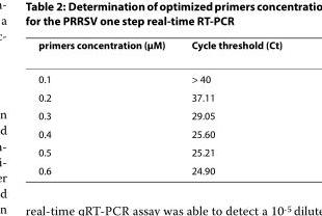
<table><thead><tr><td>primers concentration (μM)</td><td>Cycle threshold (Ct)</td></tr></thead><tbody><tr><td>0.1</td><td>&gt; 40</td></tr><tr><td>0.2</td><td>37.11</td></tr><tr><td>0.3</td><td>29.05</td></tr><tr><td>0.4</td><td>25.60</td></tr><tr><td>0.5</td><td>25.21</td></tr><tr><td>0.6</td><td>24.90</td></tr></tbody></table>